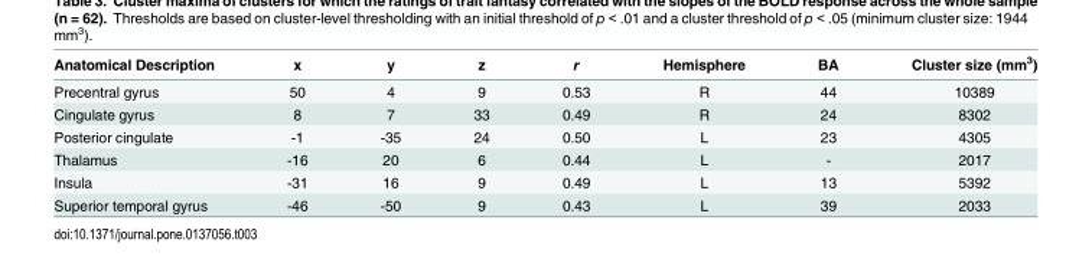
<table><thead><tr><td>Anatomical Description</td><td>x</td><td>y</td><td>z</td><td>r</td><td>Hemisphere</td><td>BA</td><td>Cluster size (mm<sup>3</sup>)</td></tr></thead><tbody><tr><td>Precentral gyrus</td><td>50</td><td>4</td><td>9</td><td>0.53</td><td>R</td><td>44</td><td>10389</td></tr><tr><td>Cingulate gyrus</td><td>8</td><td>7</td><td>33</td><td>0.49</td><td>R</td><td>24</td><td>8302</td></tr><tr><td>Posterior cingulate</td><td>-1</td><td>-35</td><td>24</td><td>0.50</td><td>L</td><td>23</td><td>4305</td></tr><tr><td>Thalamus</td><td>-16</td><td>20</td><td>6</td><td>0.44</td><td>L</td><td>-</td><td>2017</td></tr><tr><td>Insula</td><td>-31</td><td>16</td><td>9</td><td>0.49</td><td>L</td><td>13</td><td>5392</td></tr><tr><td>Superior temporal gyrus</td><td>-46</td><td>-50</td><td>9</td><td>0.43</td><td>L</td><td>39</td><td>2033</td></tr></tbody></table>